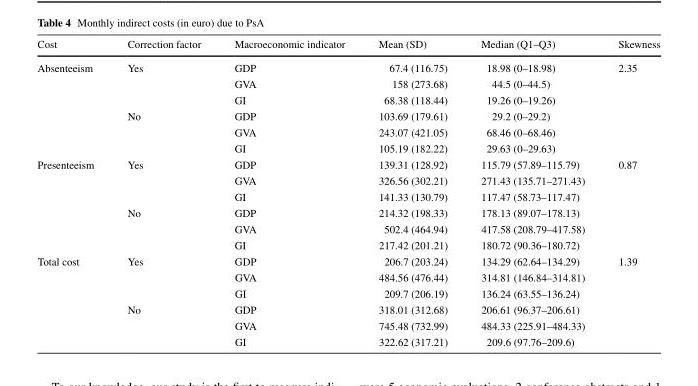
<table><thead><tr><td>Cost</td><td>Correction factor</td><td>Macroeconomic indicator</td><td>Mean (SD)</td><td>Median (Q1–Q3)</td><td>Skewness</td></tr></thead><tbody><tr><td rowspan="6">Absenteeism</td><td rowspan="3">Yes</td><td>GDP</td><td>67.4 (116.75)</td><td>18.98 (0–18.98)</td><td rowspan="6">2.35</td></tr><tr><td>GVA</td><td>158 (273.68)</td><td>44.5 (0–44.5)</td></tr><tr><td>GI</td><td>68.38 (118.44)</td><td>19.26 (0–19.26)</td></tr><tr><td rowspan="3">No</td><td>GDP</td><td>103.69 (179.61)</td><td>29.2 (0–29.2)</td></tr><tr><td>GVA</td><td>243.07 (421.05)</td><td>68.46 (0–68.46)</td></tr><tr><td>GI</td><td>105.19 (182.22)</td><td>29.63 (0–29.63)</td></tr><tr><td rowspan="6">Presenteeism</td><td rowspan="3">Yes</td><td>GDP</td><td>139.31 (128.92)</td><td>115.79 (57.89–115.79)</td><td rowspan="6">0.87</td></tr><tr><td>GVA</td><td>326.56 (302.21)</td><td>271.43 (135.71–271.43)</td></tr><tr><td>GI</td><td>141.33 (130.79)</td><td>117.47 (58.73–117.47)</td></tr><tr><td rowspan="3">No</td><td>GDP</td><td>214.32 (198.33)</td><td>178.13 (89.07–178.13)</td></tr><tr><td>GVA</td><td>502.4 (464.94)</td><td>417.58 (208.79–417.58)</td></tr><tr><td>GI</td><td>217.42 (201.21)</td><td>180.72 (90.36–180.72)</td></tr><tr><td rowspan="6">Total cost</td><td rowspan="3">Yes</td><td>GDP</td><td>206.7 (203.24)</td><td>134.29 (62.64–134.29)</td><td rowspan="6">1.39</td></tr><tr><td>GVA</td><td>484.56 (476.44)</td><td>314.81 (146.84–314.81)</td></tr><tr><td>GI</td><td>209.7 (206.19)</td><td>136.24 (63.55–136.24)</td></tr><tr><td rowspan="3">No</td><td>GDP</td><td>318.01 (312.68)</td><td>206.61 (96.37–206.61)</td></tr><tr><td>GVA</td><td>745.48 (732.99)</td><td>484.33 (225.91–484.33)</td></tr><tr><td>GI</td><td>322.62 (317.21)</td><td>209.6 (97.76–209.6)</td></tr></tbody></table>